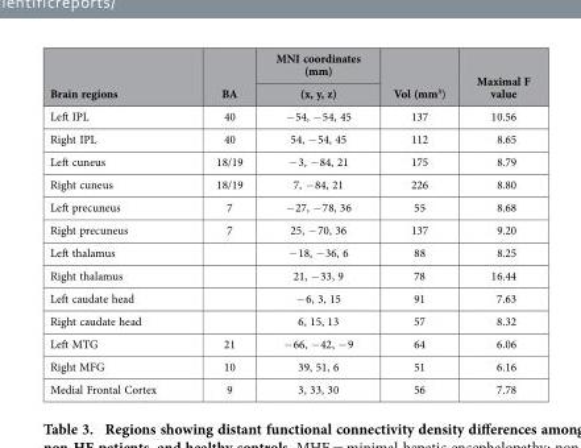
<table><thead><tr><td rowspan="2">Brain regions</td><td rowspan="2">BA</td><td rowspan="2">MNI coordinates (mm) (x, y, z)</td><td rowspan="2">Vol (mm<sup>3</sup>)</td><td rowspan="2">Maximal F value</td></tr><tr></tr></thead><tbody><tr><td>Left IPL</td><td>40</td><td>− 54, − 54, 45</td><td>137</td><td>10.56</td></tr><tr><td>Right IPL</td><td>40</td><td>54, − 54, 45</td><td>112</td><td>8.65</td></tr><tr><td>Left cuneus</td><td>18/19</td><td>− 3, − 84, 21</td><td>175</td><td>8.79</td></tr><tr><td>Right cuneus</td><td>18/19</td><td>7, − 84, 21</td><td>226</td><td>8.80</td></tr><tr><td>Left precuneus</td><td>7</td><td>− 27, − 78, 36</td><td>55</td><td>8.68</td></tr><tr><td>Right precuneus</td><td>7</td><td>25, − 70, 36</td><td>137</td><td>9.20</td></tr><tr><td>Left thalamus</td><td></td><td>− 18, − 36, 6</td><td>88</td><td>8.25</td></tr><tr><td>Right thalamus</td><td></td><td>21, − 33, 9</td><td>78</td><td>16.44</td></tr><tr><td>Left caudate head</td><td></td><td>− 6, 3, 15</td><td>91</td><td>7.63</td></tr><tr><td>Right caudate head</td><td></td><td>6, 15, 13</td><td>57</td><td>8.32</td></tr><tr><td>Left MTG</td><td>21</td><td>− 66, − 42, − 9</td><td>64</td><td>6.06</td></tr><tr><td>Right MFG</td><td>10</td><td>39, 51, 6</td><td>51</td><td>6.16</td></tr><tr><td>Medial Frontal Cortex</td><td>9</td><td>3, 33, 30</td><td>56</td><td>7.78</td></tr></tbody></table>